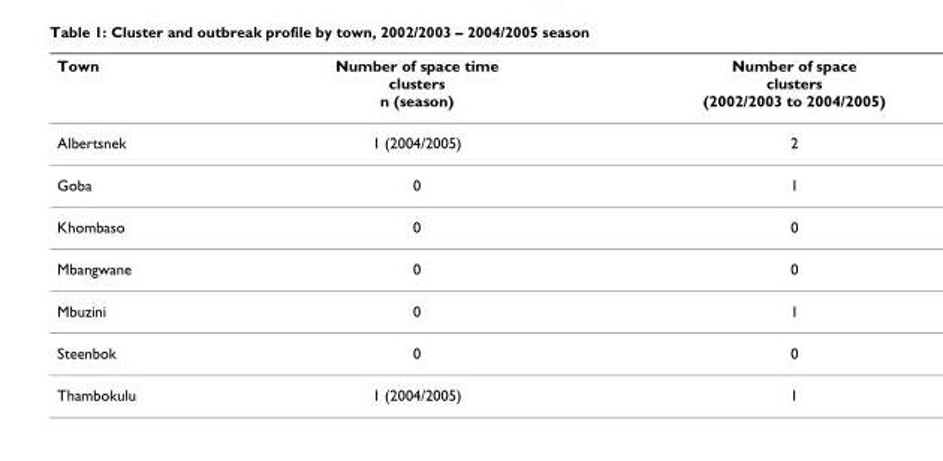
<table><thead><tr><td>Town</td><td>Number of space time clusters n (season)</td><td>Number of space clusters (2002/2003 to 2004/2005)</td></tr></thead><tbody><tr><td>Albertsnek</td><td>1 (2004/2005)</td><td>2</td></tr><tr><td>Goba</td><td>0</td><td>1</td></tr><tr><td>Khombaso</td><td>0</td><td>0</td></tr><tr><td>Mbangwane</td><td>0</td><td>0</td></tr><tr><td>Mbuzini</td><td>0</td><td>1</td></tr><tr><td>Steenbok</td><td>0</td><td>0</td></tr><tr><td>Thambokulu</td><td>1 (2004/2005)</td><td>1</td></tr></tbody></table>